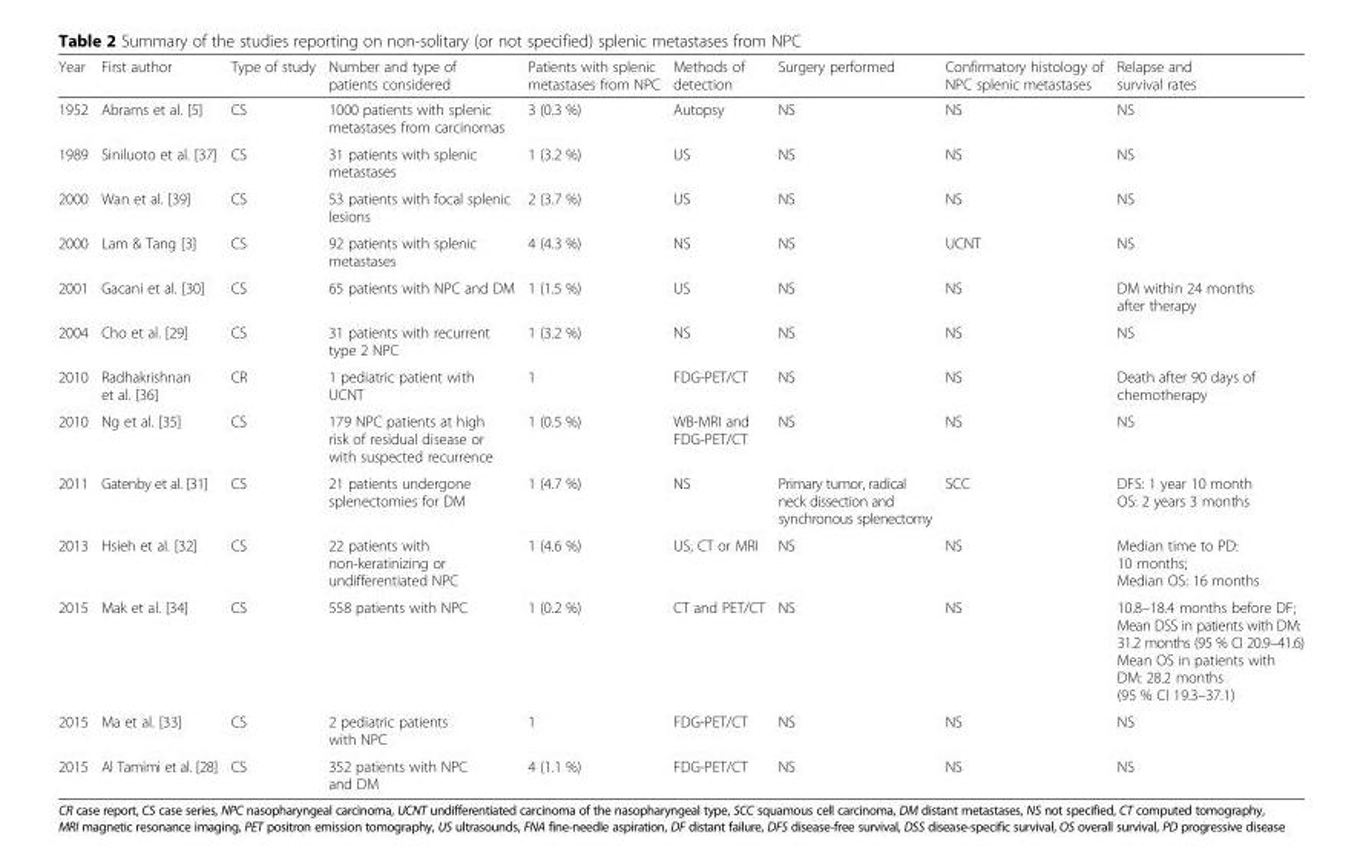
<table><thead><tr><td>Year</td><td>First author</td><td>Type of study</td><td>Number and type of patients considered</td><td>Patients with splenic metastases from NPC</td><td>Methods of detection</td><td>Surgery performed</td><td>Confirmatory histology of NPC splenic metastases</td><td>Relapse and survival rates</td></tr></thead><tbody><tr><td>1952</td><td>Abrams et al. [5]</td><td>CS</td><td>1000 patients with splenic metastases from carcinomas</td><td>3 (0.3 %)</td><td>Autopsy</td><td>NS</td><td>NS</td><td>NS</td></tr><tr><td>1989</td><td>Siniluoto et al. [37]</td><td>CS</td><td>31 patients with splenic metastases</td><td>1 (3.2 %)</td><td>US</td><td>NS</td><td>NS</td><td>NS</td></tr><tr><td>2000</td><td>Wan et al. [39]</td><td>CS</td><td>53 patients with focal splenic lesions</td><td>2 (3.7 %)</td><td>US</td><td>NS</td><td>NS</td><td>NS</td></tr><tr><td>2000</td><td>Lam &amp; Tang [3]</td><td>CS</td><td>92 patients with splenic metastases</td><td>4 (4.3 %)</td><td>NS</td><td>NS</td><td>UCNT</td><td>NS</td></tr><tr><td>2001</td><td>Gacani et al. [30]</td><td>CS</td><td>65 patients with NPC and DM</td><td>1 (1.5 %)</td><td>US</td><td>NS</td><td>NS</td><td>DM within 24 months after therapy</td></tr><tr><td>2004</td><td>Cho et al. [29]</td><td>CS</td><td>31 patients with recurrent type 2 NPC</td><td>1 (3.2 %)</td><td>NS</td><td>NS</td><td>NS</td><td>NS</td></tr><tr><td>2010</td><td>Radhakrishnan et al. [36]</td><td>CR</td><td>1 pediatric patient with UCNT</td><td>1</td><td>FDG-PET/CT</td><td>NS</td><td>NS</td><td>Death after 90 days of chemotherapy</td></tr><tr><td>2010</td><td>Ng et al. [35]</td><td>CS</td><td>179 NPC patients at high risk of residual disease or with suspected recurrence</td><td>1 (0.5 %)</td><td>WB-MRI and FDG-PET/CT</td><td>NS</td><td>NS</td><td>NS</td></tr><tr><td>2011</td><td>Gatenby et al. [31]</td><td>CS</td><td>21 patients undergone splenectomies for DM</td><td>1 (4.7 %)</td><td>NS</td><td>Primary tumor, radical neck dissection and synchronous splenectomy</td><td>SCC</td><td>DFS: 1 year 10 month OS: 2 years 3 months</td></tr><tr><td>2013</td><td>Hsieh et al. [32]</td><td>CS</td><td>22 patients with non-keratinizing or undifferentiated NPC</td><td>1 (4.6 %)</td><td>US, CT or MRI</td><td>NS</td><td>NS</td><td>Median time to PD: 10 months; Median OS: 16 months</td></tr><tr><td>2015</td><td>Mak et al. [34]</td><td>CS</td><td>558 patients with NPC</td><td>1 (0.2 %)</td><td>CT and PET/CT</td><td>NS</td><td>NS</td><td>10.8–18.4 months before DF; Mean DSS in patients with DM: 31.2 months (95 % CI 20.9–41.6) Mean OS in patients with DM: 28.2 months (95 % CI 19.3–37.1)</td></tr><tr><td>2015</td><td>Ma et al. [33]</td><td>CS</td><td>2 pediatric patients with NPC</td><td>1</td><td>FDG-PET/CT</td><td>NS</td><td>NS</td><td>NS</td></tr><tr><td>2015</td><td>Al Tamimi et al. [28]</td><td>CS</td><td>352 patients with NPC and DM</td><td>4 (1.1 %)</td><td>FDG-PET/CT</td><td>NS</td><td>NS</td><td>NS</td></tr></tbody></table>